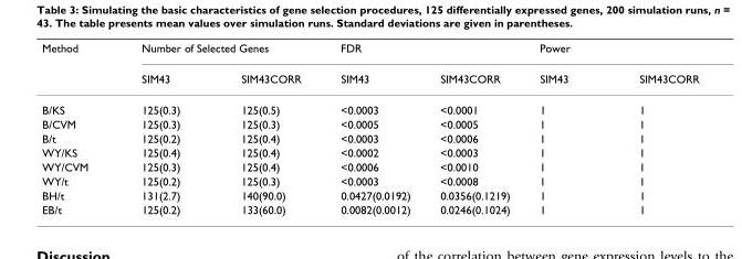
<table><thead><tr><td rowspan="2">Method</td><td colspan="2">Number of Selected Genes</td><td colspan="2">FDR</td><td colspan="2">Power</td></tr><tr><td>SIM43</td><td>SIM43CORR</td><td>SIM43</td><td>SIM43CORR</td><td>SIM43</td><td>SIM43CORR</td></tr></thead><tbody><tr><td>B/KS</td><td>125(0.3)</td><td>125(0.5)</td><td>&lt;0.0003</td><td>&lt;0.0001</td><td>1</td><td>1</td></tr><tr><td>B/CVM</td><td>125(0.3)</td><td>125(0.3)</td><td>&lt;0.0005</td><td>&lt;0.0005</td><td>1</td><td>1</td></tr><tr><td>B/t</td><td>125(0.2)</td><td>125(0.4)</td><td>&lt;0.0003</td><td>&lt;0.0006</td><td>1</td><td>1</td></tr><tr><td>WY/KS</td><td>125(0.4)</td><td>125(0.4)</td><td>&lt;0.0002</td><td>&lt;0.0003</td><td>1</td><td>1</td></tr><tr><td>WY/CVM</td><td>125(0.3)</td><td>125(0.4)</td><td>&lt;0.0006</td><td>&lt;0.0010</td><td>1</td><td>1</td></tr><tr><td>WY/t</td><td>125(0.2)</td><td>125(0.3)</td><td>&lt;0.0003</td><td>&lt;0.0008</td><td>1</td><td>1</td></tr><tr><td>BH/t</td><td>131(2.7)</td><td>140(90.0)</td><td>0.0427(0.0192)</td><td>0.0356(0.1219)</td><td>1</td><td>1</td></tr><tr><td>EB/t</td><td>125(0.2)</td><td>133(60.0)</td><td>0.0082(0.0012)</td><td>0.0246(0.1024)</td><td>1</td><td>1</td></tr></tbody></table>